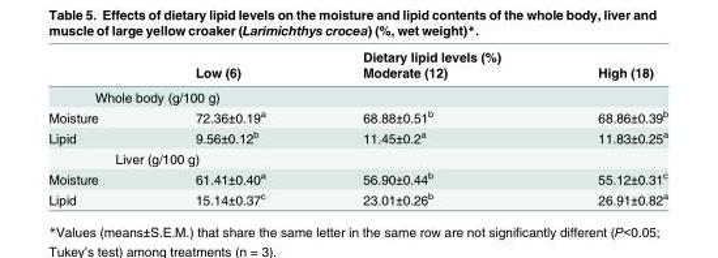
<table><thead><tr><td rowspan="2"></td><td rowspan="2">Low (6)</td><td rowspan="2">Dietary lipid levels (%) Moderate (12)</td><td rowspan="2">High (18)</td></tr><tr></tr></thead><tbody><tr><td colspan="4">Whole body (g/100 g)</td></tr><tr><td>Moisture</td><td>72.36±0.19<sup>a</sup></td><td>68.88±0.51<sup>b</sup></td><td>68.86±0.39<sup>b</sup></td></tr><tr><td>Lipid</td><td>9.56±0.12<sup>b</sup></td><td>11.45±0.2<sup>a</sup></td><td>11.83±0.25<sup>a</sup></td></tr><tr><td colspan="4">Liver (g/100 g)</td></tr><tr><td>Moisture</td><td>61.41±0.40<sup>a</sup></td><td>56.90±0.44<sup>b</sup></td><td>55.12±0.31<sup>c</sup></td></tr><tr><td>Lipid</td><td>15.14±0.37<sup>c</sup></td><td>23.01±0.26<sup>b</sup></td><td>26.91±0.82<sup>a</sup></td></tr></tbody></table>